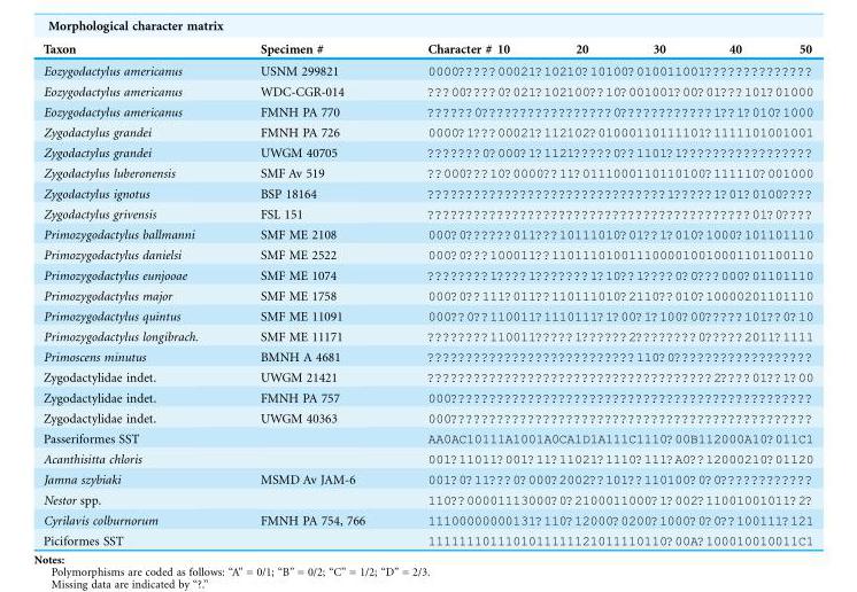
<table><thead><tr><td>Taxon</td><td>Specimen #</td><td>Character # 10</td><td>20</td><td>30</td><td>40</td><td>50</td></tr></thead><tbody><tr><td>Eozygodactylus americanus</td><td>USNM 299821</td><td colspan="5">0000?????00021?10210?10100?010011001??????????????</td></tr><tr><td>Eozygodactylus americanus</td><td>WDC-CGR-014</td><td colspan="5">???00????0?021?102100??10?001001?00?01???101?01000</td></tr><tr><td>Eozygodactylus americanus</td><td>FMNH PA 770</td><td colspan="5">??????0?????????????????0????????????1??1?010?1000</td></tr><tr><td>Zygodactylus grandei</td><td>FMNH PA 726</td><td colspan="5">0000?1???00021?112102?01000110111101?1111101001001</td></tr><tr><td>Zygodactylus grandei</td><td>UWGM 40705</td><td colspan="5">???????0?000?1?1121?????0??1101?1?????????????????</td></tr><tr><td>Zygodactylus luberonensis</td><td>SMF Av 519</td><td colspan="5">??000???10?0000??11?0111000110110100?111110?001000</td></tr><tr><td>Zygodactylus ignotus</td><td>BSP 18164</td><td colspan="5">???????????????????????????????1?????1?01?0100????</td></tr><tr><td>Zygodactylus grivensis</td><td>FSL 151</td><td colspan="5">??????????????????????????????????????????01?0????</td></tr><tr><td>Primozygodactylus ballmanni</td><td>SMF ME 2108</td><td colspan="5">000?0??????011???10111010?01??1?010?1000?101101110</td></tr><tr><td>Primozygodactylus danielsi</td><td>SMF ME 2522</td><td colspan="5">000?0???100011??1101110100111000010010001101100110</td></tr><tr><td>Primozygodactylus eunjooae</td><td>SMF ME 1074</td><td colspan="5">????????1????1???????1?10??1????0?0???000?01101110</td></tr><tr><td>Primozygodactylus major</td><td>SMF ME 1758</td><td colspan="5">000?0??111?011??110111010?2110??010?10000201101110</td></tr><tr><td>Primozygodactylus quintus</td><td>SMF ME 11091</td><td colspan="5">000??0??110011?1110111?1?00?1?100?00?????101??0?10</td></tr><tr><td>Primozygodactylus longibrach.</td><td>SMF ME 11171</td><td colspan="5">????????110011?????1??????2????????0?????2011?1111</td></tr><tr><td>Primoscens minutus</td><td>BMNH A 4681</td><td colspan="5">???????????????????????????110?0??????????????????</td></tr><tr><td>Zygodactylidae indet.</td><td>UWGM 21421</td><td colspan="5">?????????????????????????????????????2????01??1?00</td></tr><tr><td>Zygodactylidae indet.</td><td>FMNH PA 757</td><td colspan="5">000???????????????????????????????????????????????</td></tr><tr><td>Zygodactylidae indet.</td><td>UWGM 40363</td><td colspan="5">000???????????????????????????????????????????????</td></tr><tr><td>Passeriformes SST</td><td></td><td colspan="5">AA0AC10111A1001A0CA1D1A111C1110?00B112000A10?011C1</td></tr><tr><td>Acanthisitta chloris</td><td></td><td colspan="5">001?11011?001?11?11021?1110?111?A0??12000210?01120</td></tr><tr><td>Jamna szybiaki</td><td>MSMD Av JAM-6</td><td colspan="5">001?0?11???0?000?2002??101??110100?0?0????????????</td></tr><tr><td>Nestor spp.</td><td></td><td colspan="5">110??00001113000?0?2100011000?1?002?11001001011?2?</td></tr><tr><td>Cyrilavis colburnorum</td><td>FMNH PA 754, 766</td><td colspan="5">11100000000131?110?12000?0200?1000?0?0??100111?121</td></tr><tr><td>Piciformes SST</td><td></td><td colspan="5">1111111011101011111121011110110?00A?100010010011C1</td></tr></tbody></table>